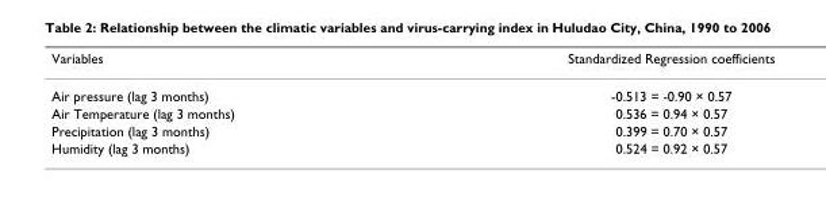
<table><thead><tr><td>Variables</td><td>Standardized Regression coefficients</td></tr></thead><tbody><tr><td>Air pressure (lag 3 months)</td><td>-0.513 = -0.90 × 0.57</td></tr><tr><td>Air Temperature (lag 3 months)</td><td>0.536 = 0.94 × 0.57</td></tr><tr><td>Precipitation (lag 3 months)</td><td>0.399 = 0.70 × 0.57</td></tr><tr><td>Humidity (lag 3 months)</td><td>0.524 = 0.92 × 0.57</td></tr></tbody></table>